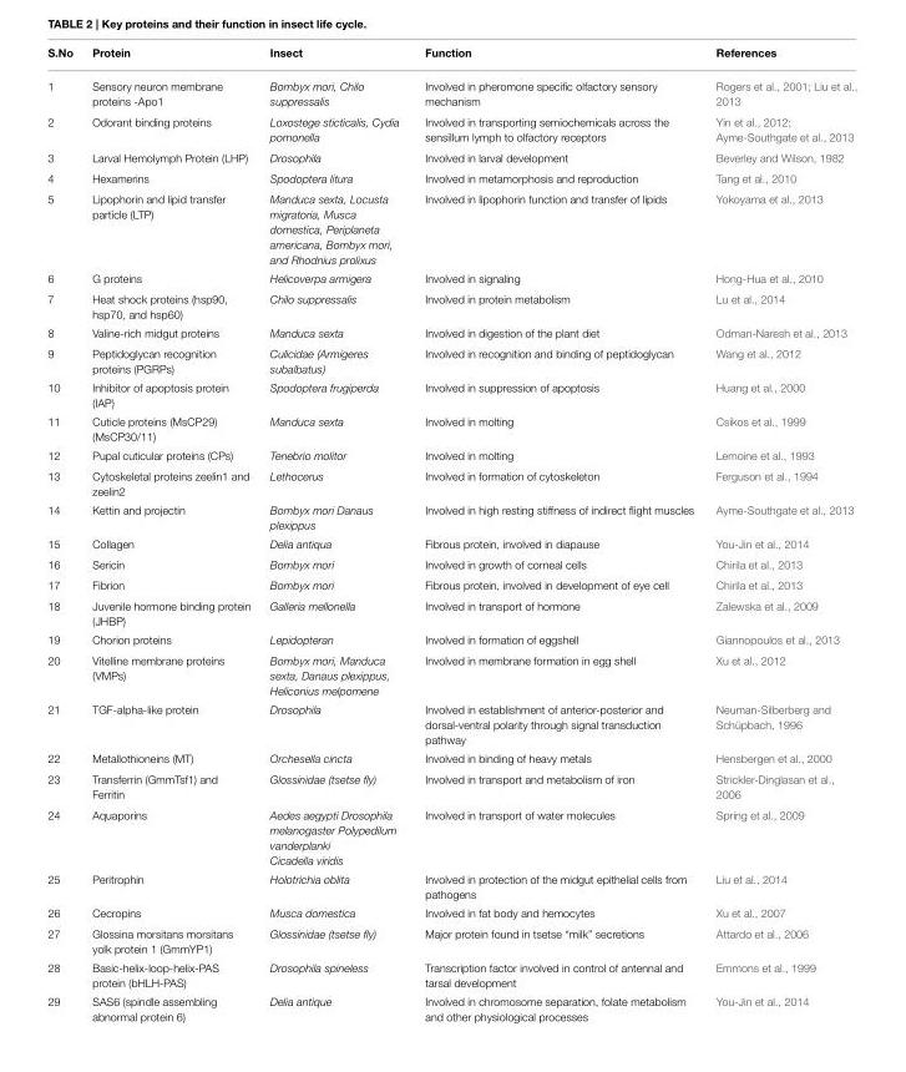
<table><thead><tr><td>S.No</td><td>Protein</td><td>Insect</td><td>Function</td><td>References</td></tr></thead><tbody><tr><td>1</td><td>Sensory neuron membrane proteins -Apo1</td><td>Bombyx mori, Chilo suppressalis</td><td>Involved in pheromone specific olfactory sensory mechanism</td><td>Rogers et al., 2001; Liu et al., 2013</td></tr><tr><td>2</td><td>Odorant binding proteins</td><td>Loxostege sticticalis, Cydia pomonella</td><td>Involved in transporting semiochemicals across the sensillum lymph to olfactory receptors</td><td>Yin et al., 2012; Ayme-Southgate et al., 2013</td></tr><tr><td>3</td><td>Larval Hemolymph Protein (LHP)</td><td>Drosophila</td><td>Involved in larval development</td><td>Beverley and Wilson, 1982</td></tr><tr><td>4</td><td>Hexamerins</td><td>Spodoptera litura</td><td>Involved in metamorphosis and reproduction</td><td>Tang et al., 2010</td></tr><tr><td>5</td><td>Lipophorin and lipid transfer particle (LTP)</td><td>Manduca sexta, Locusta migratoria, Musca domestica, Periplaneta americana, Bombyx mori, and Rhodnius prolixus</td><td>Involved in lipophorin function and transfer of lipids</td><td>Yokoyama et al., 2013</td></tr><tr><td>6</td><td>G proteins</td><td>Helicoverpa armigera</td><td>Involved in signaling</td><td>Hong-Hua et al., 2010</td></tr><tr><td>7</td><td>Heat shock proteins (hsp90, hsp70, and hsp60)</td><td>Chilo suppressalis</td><td>Involved in protein metabolism</td><td>Lu et al., 2014</td></tr><tr><td>8</td><td>Valine-rich midgut proteins</td><td>Manduca sexta</td><td>Involved in digestion of the plant diet</td><td>Odman-Naresh et al., 2013</td></tr><tr><td>9</td><td>Peptidoglycan recognition proteins (PGRPs)</td><td>Culicidae (Armigeres subalbatus)</td><td>Involved in recognition and binding of peptidoglycan</td><td>Wang et al., 2012</td></tr><tr><td>10</td><td>Inhibitor of apoptosis protein (IAP)</td><td>Spodoptera frugiperda</td><td>Involved in suppression of apoptosis</td><td>Huang et al., 2000</td></tr><tr><td>11</td><td>Cuticle proteins (MsCP29) (MsCP30/11)</td><td>Manduca sexta</td><td>Involved in molting</td><td>Csikos et al., 1999</td></tr><tr><td>12</td><td>Pupal cuticular proteins (CPs)</td><td>Tenebrio molitor</td><td>Involved in molting</td><td>Lemoine et al., 1993</td></tr><tr><td>13</td><td>Cytoskeletal proteins zeelin1 and zeelin2</td><td>Lethocerus</td><td>Involved in formation of cytoskeleton</td><td>Ferguson et al., 1994</td></tr><tr><td>14</td><td>Kettin and projectin</td><td>Bombyx mori Danaus plexippus</td><td>Involved in high resting stiffness of indirect flight muscles</td><td>Ayme-Southgate et al., 2013</td></tr><tr><td>15</td><td>Collagen</td><td>Delia antiqua</td><td>Fibrous protein, involved in diapause</td><td>You-Jin et al., 2014</td></tr><tr><td>16</td><td>Sericin</td><td>Bombyx mori</td><td>Involved in growth of corneal cells</td><td>Chirila et al., 2013</td></tr><tr><td>17</td><td>Fibrion</td><td>Bombyx mori</td><td>Fibrous protein, involved in development of eye cell</td><td>Chirila et al., 2013</td></tr><tr><td>18</td><td>Juvenile hormone binding protein (JHBP)</td><td>Galleria mellonella</td><td>Involved in transport of hormone</td><td>Zalewska et al., 2009</td></tr><tr><td>19</td><td>Chorion proteins</td><td>Lepidopteran</td><td>Involved in formation of eggshell</td><td>Giannopoulos et al., 2013</td></tr><tr><td>20</td><td>Vitelline membrane proteins (VMPs)</td><td>Bombyx mori, Manduca sexta, Danaus plexippus, Heliconius melpomene</td><td>Involved in membrane formation in egg shell</td><td>Xu et al., 2012</td></tr><tr><td>21</td><td>TGF-alpha-like protein</td><td>Drosophila</td><td>Involved in establishment of anterior-posterior and dorsal-ventral polarity through signal transduction pathway</td><td>Neuman-Silberberg and Schüpbach, 1996</td></tr><tr><td>22</td><td>Metallothioneins (MT)</td><td>Orchesella cincta</td><td>Involved in binding of heavy metals</td><td>Hensbergen et al., 2000</td></tr><tr><td>23</td><td>Transferrin (GmmTsf1) and Ferritin</td><td>Glossinidae (tsetse fly)</td><td>Involved in transport and metabolism of iron</td><td>Strickler-Dinglasan et al., 2006</td></tr><tr><td>24</td><td>Aquaporins</td><td>Aedes aegypti Drosophila melanogaster Polypedilum vanderplanki Cicadella viridis</td><td>Involved in transport of water molecules</td><td>Spring et al., 2009</td></tr><tr><td>25</td><td>Peritrophin</td><td>Holotrichia oblita</td><td>Involved in protection of the midgut epithelial cells from pathogens</td><td>Liu et al., 2014</td></tr><tr><td>26</td><td>Cecropins</td><td>Musca domestica</td><td>Involved in fat body and hemocytes</td><td>Xu et al., 2007</td></tr><tr><td>27</td><td>Glossina morsitans morsitans yolk protein 1 (GmmYP1)</td><td>Glossinidae (tsetse fly)</td><td>Major protein found in tsetse “milk” secretions</td><td>Attardo et al., 2006</td></tr><tr><td>28</td><td>Basic-helix-loop-helix-PAS protein (bHLH-PAS)</td><td>Drosophila spineless</td><td>Transcription factor involved in control of antennal and tarsal development</td><td>Emmons et al., 1999</td></tr><tr><td>29</td><td>SAS6 (spindle assembling abnormal protein 6)</td><td>Delia antique</td><td>Involved in chromosome separation, folate metabolism and other physiological processes</td><td>You-Jin et al., 2014</td></tr></tbody></table>